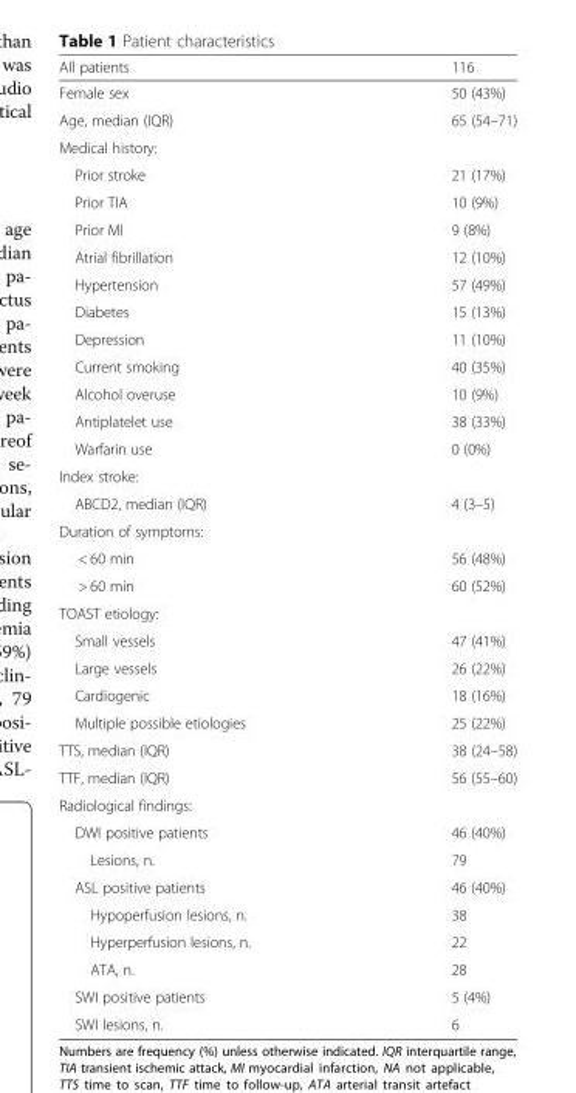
<table><thead><tr><td>All patients</td><td>116</td></tr></thead><tbody><tr><td>Female sex</td><td>50 (43%)</td></tr><tr><td>Age, median (IQR)</td><td>65 (54–71)</td></tr><tr><td colspan="2">Medical history:</td></tr><tr><td>Prior stroke</td><td>21 (17%)</td></tr><tr><td>Prior TIA</td><td>10 (9%)</td></tr><tr><td>Prior MI</td><td>9 (8%)</td></tr><tr><td>Atrial fibrillation</td><td>12 (10%)</td></tr><tr><td>Hypertension</td><td>57 (49%)</td></tr><tr><td>Diabetes</td><td>15 (13%)</td></tr><tr><td>Depression</td><td>11 (10%)</td></tr><tr><td>Current smoking</td><td>40 (35%)</td></tr><tr><td>Alcohol overuse</td><td>10 (9%)</td></tr><tr><td>Antiplatelet use</td><td>38 (33%)</td></tr><tr><td>Warfarin use</td><td>0 (0%)</td></tr><tr><td colspan="2">Index stroke:</td></tr><tr><td>ABCD2, median (IQR)</td><td>4 (3–5)</td></tr><tr><td colspan="2">Duration of symptoms:</td></tr><tr><td>&lt; 60 min</td><td>56 (48%)</td></tr><tr><td>&gt; 60 min</td><td>60 (52%)</td></tr><tr><td colspan="2">TOAST etiology:</td></tr><tr><td>Small vessels</td><td>47 (41%)</td></tr><tr><td>Large vessels</td><td>26 (22%)</td></tr><tr><td>Cardiogenic</td><td>18 (16%)</td></tr><tr><td>Multiple possible etiologies</td><td>25 (22%)</td></tr><tr><td>TTS, median (IQR)</td><td>38 (24–58)</td></tr><tr><td>TTF, median (IQR)</td><td>56 (55–60)</td></tr><tr><td colspan="2">Radiological findings:</td></tr><tr><td>DWI positive patients</td><td>46 (40%)</td></tr><tr><td>Lesions, n.</td><td>79</td></tr><tr><td>ASL positive patients</td><td>46 (40%)</td></tr><tr><td>Hypoperfusion lesions, n.</td><td>38</td></tr><tr><td>Hyperperfusion lesions, n.</td><td>22</td></tr><tr><td>ATA, n.</td><td>28</td></tr><tr><td>SWI positive patients</td><td>5 (4%)</td></tr><tr><td>SWI lesions, n.</td><td>6</td></tr></tbody></table>